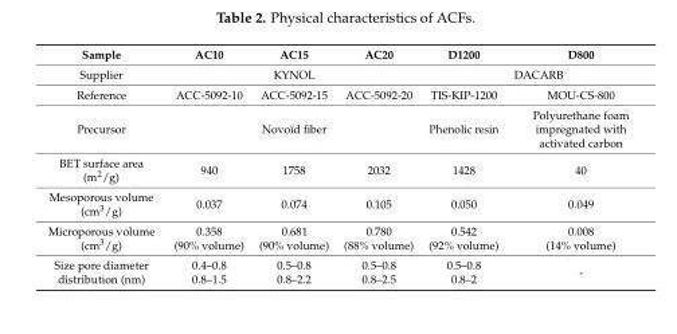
<table><thead><tr><td>Sample</td><td>AC10</td><td>AC15</td><td>AC20</td><td>D1200</td><td>D800</td></tr></thead><tbody><tr><td>Supplier</td><td colspan="3">KYNOL</td><td colspan="2">DACARB</td></tr><tr><td>Reference</td><td>ACC-5092-10</td><td>ACC-5092-15</td><td>ACC-5092-20</td><td>TIS-KIP-1200</td><td>MOU-CS-800</td></tr><tr><td>Precursor</td><td colspan="3">Novoïd fiber</td><td>Phenolic resin</td><td>Polyurethane foam impregnated with activated carbon</td></tr><tr><td>BET surface area (m<sup>2</sup>/g)</td><td>940</td><td>1758</td><td>2032</td><td>1428</td><td>40</td></tr><tr><td>Mesoporous volume (cm<sup>3</sup>/g)</td><td>0.037</td><td>0.074</td><td>0.105</td><td>0.050</td><td>0.049</td></tr><tr><td>Microporous volume (cm<sup>3</sup>/g)</td><td>0.358 (90% volume)</td><td>0.681 (90% volume)</td><td>0.780 (88% volume)</td><td>0.542 (92% volume)</td><td>0.008 (14% volume)</td></tr><tr><td>Size pore diameter distribution (nm)</td><td>0.4–0.8 0.8–1.5</td><td>0.5–0.8 0.8–2.2</td><td>0.5–0.8 0.8–2.5</td><td>0.5–0.8 0.8–2</td><td>-</td></tr></tbody></table>